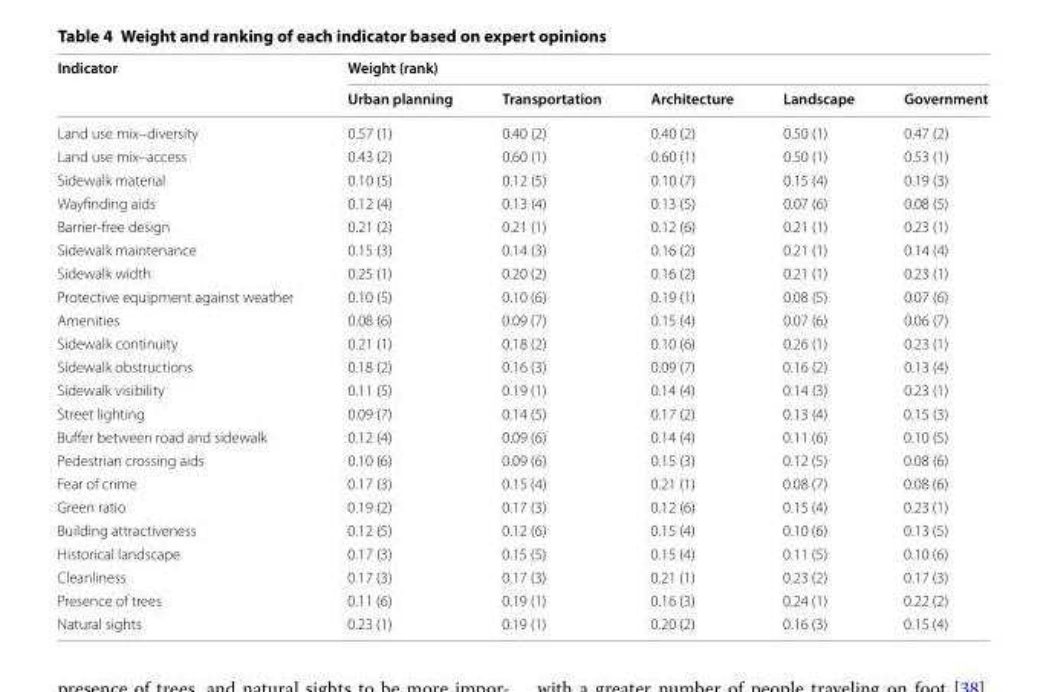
<table><thead><tr><td rowspan="2">Indicator</td><td colspan="5">Weight (rank)</td></tr><tr><td>Urban planning</td><td>Transportation</td><td>Architecture</td><td>Landscape</td><td>Government</td></tr></thead><tbody><tr><td>Land use mix–diversity</td><td>0.57 (1)</td><td>0.40 (2)</td><td>0.40 (2)</td><td>0.50 (1)</td><td>0.47 (2)</td></tr><tr><td>Land use mix–access</td><td>0.43 (2)</td><td>0.60 (1)</td><td>0.60 (1)</td><td>0.50 (1)</td><td>0.53 (1)</td></tr><tr><td>Sidewalk material</td><td>0.10 (5)</td><td>0.12 (5)</td><td>0.10 (7)</td><td>0.15 (4)</td><td>0.19 (3)</td></tr><tr><td>Wayfinding aids</td><td>0.12 (4)</td><td>0.13 (4)</td><td>0.13 (5)</td><td>0.07 (6)</td><td>0.08 (5)</td></tr><tr><td>Barrier‑free design</td><td>0.21 (2)</td><td>0.21 (1)</td><td>0.12 (6)</td><td>0.21 (1)</td><td>0.23 (1)</td></tr><tr><td>Sidewalk maintenance</td><td>0.15 (3)</td><td>0.14 (3)</td><td>0.16 (2)</td><td>0.21 (1)</td><td>0.14 (4)</td></tr><tr><td>Sidewalk width</td><td>0.25 (1)</td><td>0.20 (2)</td><td>0.16 (2)</td><td>0.21 (1)</td><td>0.23 (1)</td></tr><tr><td>Protective equipment against weather</td><td>0.10 (5)</td><td>0.10 (6)</td><td>0.19 (1)</td><td>0.08 (5)</td><td>0.07 (6)</td></tr><tr><td>Amenities</td><td>0.08 (6)</td><td>0.09 (7)</td><td>0.15 (4)</td><td>0.07 (6)</td><td>0.06 (7)</td></tr><tr><td>Sidewalk continuity</td><td>0.21 (1)</td><td>0.18 (2)</td><td>0.10 (6)</td><td>0.26 (1)</td><td>0.23 (1)</td></tr><tr><td>Sidewalk obstructions</td><td>0.18 (2)</td><td>0.16 (3)</td><td>0.09 (7)</td><td>0.16 (2)</td><td>0.13 (4)</td></tr><tr><td>Sidewalk visibility</td><td>0.11 (5)</td><td>0.19 (1)</td><td>0.14 (4)</td><td>0.14 (3)</td><td>0.23 (1)</td></tr><tr><td>Street lighting</td><td>0.09 (7)</td><td>0.14 (5)</td><td>0.17 (2)</td><td>0.13 (4)</td><td>0.15 (3)</td></tr><tr><td>Buffer between road and sidewalk</td><td>0.12 (4)</td><td>0.09 (6)</td><td>0.14 (4)</td><td>0.11 (6)</td><td>0.10 (5)</td></tr><tr><td>Pedestrian crossing aids</td><td>0.10 (6)</td><td>0.09 (6)</td><td>0.15 (3)</td><td>0.12 (5)</td><td>0.08 (6)</td></tr><tr><td>Fear of crime</td><td>0.17 (3)</td><td>0.15 (4)</td><td>0.21 (1)</td><td>0.08 (7)</td><td>0.08 (6)</td></tr><tr><td>Green ratio</td><td>0.19 (2)</td><td>0.17 (3)</td><td>0.12 (6)</td><td>0.15 (4)</td><td>0.23 (1)</td></tr><tr><td>Building attractiveness</td><td>0.12 (5)</td><td>0.12 (6)</td><td>0.15 (4)</td><td>0.10 (6)</td><td>0.13 (5)</td></tr><tr><td>Historical landscape</td><td>0.17 (3)</td><td>0.15 (5)</td><td>0.15 (4)</td><td>0.11 (5)</td><td>0.10 (6)</td></tr><tr><td>Cleanliness</td><td>0.17 (3)</td><td>0.17 (3)</td><td>0.21 (1)</td><td>0.23 (2)</td><td>0.17 (3)</td></tr><tr><td>Presence of trees</td><td>0.11 (6)</td><td>0.19 (1)</td><td>0.16 (3)</td><td>0.24 (1)</td><td>0.22 (2)</td></tr><tr><td>Natural sights</td><td>0.23 (1)</td><td>0.19 (1)</td><td>0.20 (2)</td><td>0.16 (3)</td><td>0.15 (4)</td></tr></tbody></table>